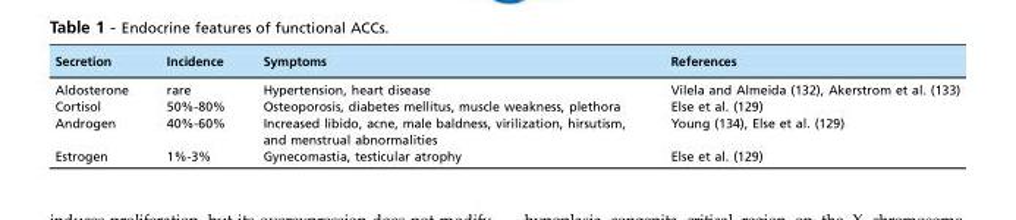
<table><thead><tr><td>Secretion</td><td>Incidence</td><td>Symptoms</td><td>References</td></tr></thead><tbody><tr><td>Aldosterone</td><td>rare</td><td>Hypertension, heart disease</td><td>Vilela and Almeida (132), Akerstrom et al. (133)</td></tr><tr><td>Cortisol</td><td>50%-80%</td><td>Osteoporosis, diabetes mellitus, muscle weakness, plethora</td><td>Else et al. (129)</td></tr><tr><td>Androgen</td><td>40%-60%</td><td>Increased libido, acne, male baldness, virilization, hirsutism, and menstrual abnormalities</td><td>Young (134), Else et al. (129)</td></tr><tr><td>Estrogen</td><td>1%-3%</td><td>Gynecomastia, testicular atrophy</td><td>Else et al. (129)</td></tr></tbody></table>